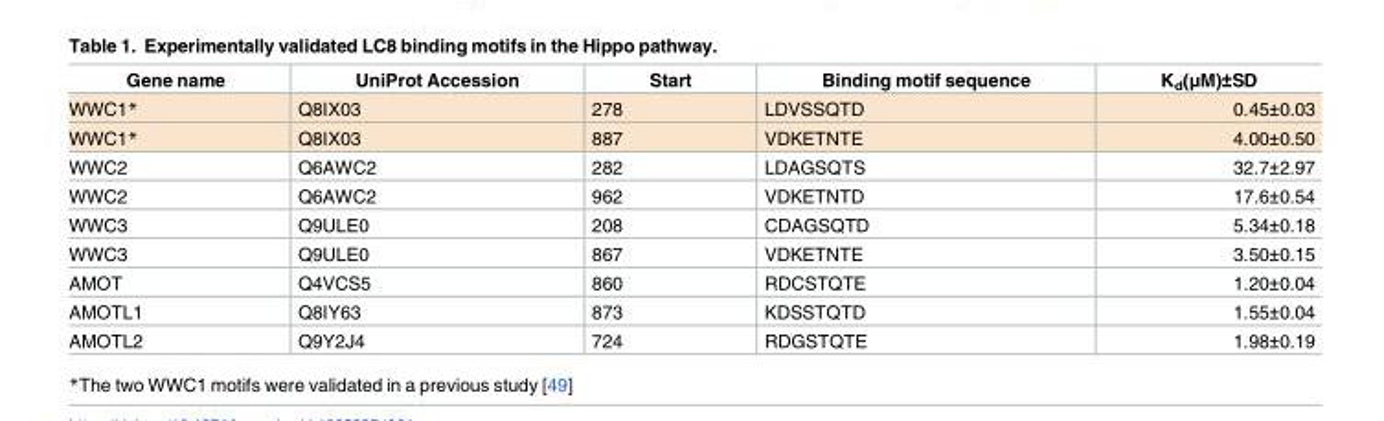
<table><thead><tr><td>Gene name</td><td>UniProt Accession</td><td>Start</td><td>Binding motif sequence</td><td>K<sub>d</sub>(μM)±SD</td></tr></thead><tbody><tr><td>WWC1*</td><td>Q8IX03</td><td>278</td><td>LDVSSQTD</td><td>0.45±0.03</td></tr><tr><td>WWC1*</td><td>Q8IX03</td><td>887</td><td>VDKETNTE</td><td>4.00±0.50</td></tr><tr><td>WWC2</td><td>Q6AWC2</td><td>282</td><td>LDAGSQTS</td><td>32.7±2.97</td></tr><tr><td>WWC2</td><td>Q6AWC2</td><td>962</td><td>VDKETNTD</td><td>17.6±0.54</td></tr><tr><td>WWC3</td><td>Q9ULE0</td><td>208</td><td>CDAGSQTD</td><td>5.34±0.18</td></tr><tr><td>WWC3</td><td>Q9ULE0</td><td>867</td><td>VDKETNTE</td><td>3.50±0.15</td></tr><tr><td>AMOT</td><td>Q4VCS5</td><td>860</td><td>RDCSTQTE</td><td>1.20±0.04</td></tr><tr><td>AMOTL1</td><td>Q8IY63</td><td>873</td><td>KDSSTQTD</td><td>1.55±0.04</td></tr><tr><td>AMOTL2</td><td>Q9Y2J4</td><td>724</td><td>RDGSTQTE</td><td>1.98±0.19</td></tr></tbody></table>